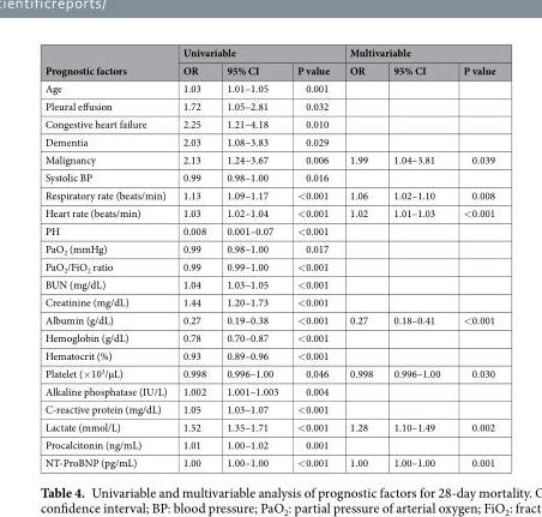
<table><thead><tr><td rowspan="2">Prognostic factors</td><td colspan="3">Univariable</td><td colspan="3">Multivariable</td></tr><tr><td>OR</td><td>95% CI</td><td>P value</td><td>OR</td><td>95% CI</td><td>P value</td></tr></thead><tbody><tr><td>Age</td><td>1.03</td><td>1.01–1.05</td><td>0.001</td><td></td><td></td><td></td></tr><tr><td>Pleural effusion</td><td>1.72</td><td>1.05–2.81</td><td>0.032</td><td></td><td></td><td></td></tr><tr><td>Congestive heart failure</td><td>2.25</td><td>1.21–4.18</td><td>0.010</td><td></td><td></td><td></td></tr><tr><td>Dementia</td><td>2.03</td><td>1.08–3.83</td><td>0.029</td><td></td><td></td><td></td></tr><tr><td>Malignancy</td><td>2.13</td><td>1.24–3.67</td><td>0.006</td><td>1.99</td><td>1.04–3.81</td><td>0.039</td></tr><tr><td>Systolic BP</td><td>0.99</td><td>0.98–1.00</td><td>0.016</td><td></td><td></td><td></td></tr><tr><td>Respiratory rate (beats/min)</td><td>1.13</td><td>1.09–1.17</td><td>&lt;0.001</td><td>1.06</td><td>1.02–1.10</td><td>0.008</td></tr><tr><td>Heart rate (beats/min)</td><td>1.03</td><td>1.02–1.04</td><td>&lt;0.001</td><td>1.02</td><td>1.01–1.03</td><td>&lt;0.001</td></tr><tr><td>PH</td><td>0.008</td><td>0.001–0.07</td><td>&lt;0.001</td><td></td><td></td><td></td></tr><tr><td>PaO<sub>2</sub> (mmHg)</td><td>0.99</td><td>0.98–1.00</td><td>0.017</td><td></td><td></td><td></td></tr><tr><td>PaO<sub>2</sub>/FiO<sub>2</sub> ratio</td><td>0.99</td><td>0.99–1.00</td><td>&lt;0.001</td><td></td><td></td><td></td></tr><tr><td>BUN (mg/dL)</td><td>1.04</td><td>1.03–1.05</td><td>&lt;0.001</td><td></td><td></td><td></td></tr><tr><td>Creatinine (mg/dL)</td><td>1.44</td><td>1.20–1.73</td><td>&lt;0.001</td><td></td><td></td><td></td></tr><tr><td>Albumin (g/dL)</td><td>0.27</td><td>0.19–0.38</td><td>&lt;0.001</td><td>0.27</td><td>0.18–0.41</td><td>&lt;0.001</td></tr><tr><td>Hemoglobin (g/dL)</td><td>0.78</td><td>0.70–0.87</td><td>&lt;0.001</td><td></td><td></td><td></td></tr><tr><td>Hematocrit (%)</td><td>0.93</td><td>0.89–0.96</td><td>&lt;0.001</td><td></td><td></td><td></td></tr><tr><td>Platelet (×10<sup>3</sup>/µL)</td><td>0.998</td><td>0.996–1.00</td><td>0.046</td><td>0.998</td><td>0.996–1.00</td><td>0.030</td></tr><tr><td>Alkaline phosphatase (IU/L)</td><td>1.002</td><td>1.001–1.003</td><td>0.004</td><td></td><td></td><td></td></tr><tr><td>C-reactive protein (mg/dL)</td><td>1.05</td><td>1.03–1.07</td><td>&lt;0.001</td><td></td><td></td><td></td></tr><tr><td>Lactate (mmol/L)</td><td>1.52</td><td>1.35–1.71</td><td>&lt;0.001</td><td>1.28</td><td>1.10–1.49</td><td>0.002</td></tr><tr><td>Procalcitonin (ng/mL)</td><td>1.01</td><td>1.00–1.02</td><td>0.001</td><td></td><td></td><td></td></tr><tr><td>NT-ProBNP (pg/mL)</td><td>1.00</td><td>1.00–1.00</td><td>&lt;0.001</td><td>1.00</td><td>1.00–1.00</td><td>0.001</td></tr></tbody></table>